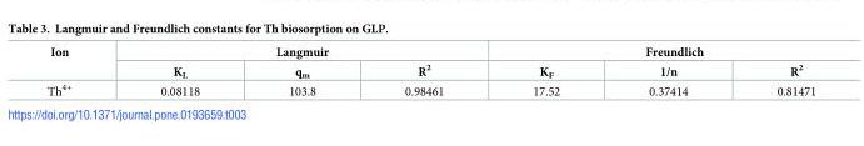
<table><thead><tr><td rowspan="2">Ion</td><td colspan="3">Langmuir</td><td colspan="3">Freundlich</td></tr><tr><td>K<sub>L</sub></td><td>q<sub>m</sub></td><td>R<sup>2</sup></td><td>K<sub>F</sub></td><td>1/n</td><td>R<sup>2</sup></td></tr></thead><tbody><tr><td>Th<sup>4+</sup></td><td>0.08118</td><td>103.8</td><td>0.98461</td><td>17.52</td><td>0.37414</td><td>0.81471</td></tr></tbody></table>